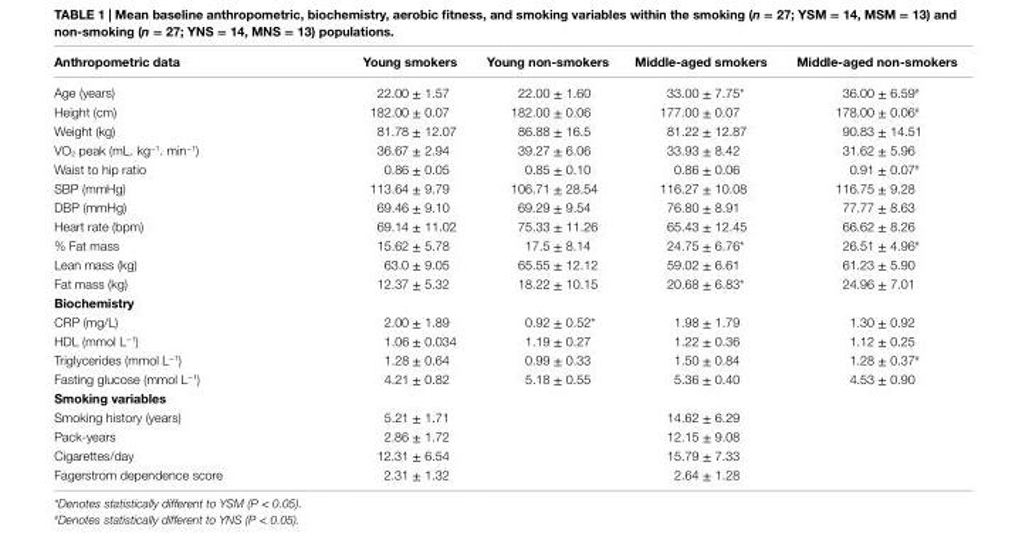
<table><thead><tr><td>anthropometric data</td><td>Young smokers</td><td>Young non-smokers</td><td>Middle-aged smokers</td><td>Middle-aged non-smokers</td></tr></thead><tbody><tr><td>Age (years)</td><td>22.00 ± 1.57</td><td>22.00 ± 1.60</td><td>33.00 ± 7.75*</td><td>36.00 ± 6.59<sup>#</sup></td></tr><tr><td>Height (cm)</td><td>182.00 ± 0.07</td><td>182.00 ± 0.06</td><td>177.00 ± 0.07</td><td>178.00 ± 0.06<sup>#</sup></td></tr><tr><td>Weight (kg)</td><td>81.78 ± 12.07</td><td>86.88 ± 16.5</td><td>81.22 ± 12.87</td><td>90.83 ± 14.51</td></tr><tr><td>VO<sub>2</sub> peak (mL. kg<sup>−1</sup>. min<sup>−1</sup>)</td><td>36.67 ± 2.94</td><td>39.27 ± 6.06</td><td>33.93 ± 8.42</td><td>31.62 ± 5.96</td></tr><tr><td>Waist to hip ratio</td><td>0.86 ± 0.05</td><td>0.85 ± 0.10</td><td>0.86 ± 0.06</td><td>0.91 ± 0.07<sup>#</sup></td></tr><tr><td>SBP (mmHg)</td><td>113.64 ± 9.79</td><td>106.71 ± 28.54</td><td>116.27 ± 10.08</td><td>116.75 ± 9.28</td></tr><tr><td>DBP (mmHg)</td><td>69.46 ± 9.10</td><td>69.29 ± 9.54</td><td>76.80 ± 8.91</td><td>77.77 ± 8.63</td></tr><tr><td>Heart rate (bpm)</td><td>69.14 ± 11.02</td><td>75.33 ± 11.26</td><td>65.43 ± 12.45</td><td>66.62 ± 8.26</td></tr><tr><td>% Fat mass</td><td>15.62 ± 5.78</td><td>17.5 ± 8.14</td><td>24.75 ± 6.76*</td><td>26.51 ± 4.96<sup>#</sup></td></tr><tr><td>Lean mass (kg)</td><td>63.0 ± 9.05</td><td>65.55 ± 12.12</td><td>59.02 ± 6.61</td><td>61.23 ± 5.90</td></tr><tr><td>Fat mass (kg)</td><td>12.37 ± 5.32</td><td>18.22 ± 10.15</td><td>20.68 ± 6.83*</td><td>24.96 ± 7.01</td></tr><tr><td colspan="5">Biochemistry</td></tr><tr><td>CRP (mg/L)</td><td>2.00 ± 1.89</td><td>0.92 ± 0.52*</td><td>1.98 ± 1.79</td><td>1.30 ± 0.92</td></tr><tr><td>HDL (mmol L<sup>−1</sup>)</td><td>1.06 ± 0.034</td><td>1.19 ± 0.27</td><td>1.22 ± 0.36</td><td>1.12 ± 0.25</td></tr><tr><td>Triglycerides (mmol L<sup>−1</sup>)</td><td>1.28 ± 0.64</td><td>0.99 ± 0.33</td><td>1.50 ± 0.84</td><td>1.28 ± 0.37<sup>#</sup></td></tr><tr><td>Fasting glucose (mmol L<sup>−1</sup>)</td><td>4.21 ± 0.82</td><td>5.18 ± 0.55</td><td>5.36 ± 0.40</td><td>4.53 ± 0.90</td></tr><tr><td colspan="5">smoking variables</td></tr><tr><td>Smoking history (years)</td><td>5.21 ± 1.71</td><td></td><td>14.62 ± 6.29</td><td></td></tr><tr><td>Pack-years</td><td>2.86 ± 1.72</td><td></td><td>12.15 ± 9.08</td><td></td></tr><tr><td>Cigarettes/day</td><td>12.31 ± 6.54</td><td></td><td>15.79 ± 7.33</td><td></td></tr><tr><td>Fagerstrom dependence score</td><td>2.31 ± 1.32</td><td></td><td>2.64 ± 1.28</td><td></td></tr></tbody></table>